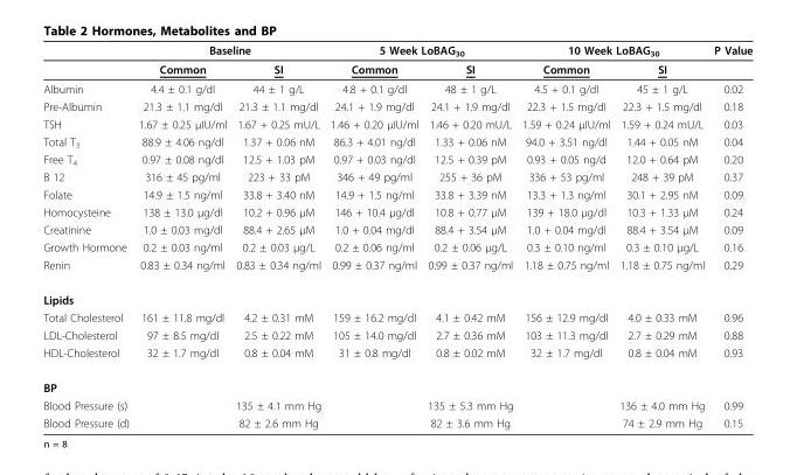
<table><thead><tr><td rowspan="2"></td><td colspan="2">Baseline</td><td colspan="2">5 Week LoBAG<sub>30</sub></td><td colspan="2">10 Week LoBAG<sub>30</sub></td><td rowspan="2">P Value</td></tr><tr><td>Common</td><td>SI</td><td>Common</td><td>SI</td><td>Common</td><td>SI</td></tr></thead><tbody><tr><td>Albumin</td><td>4.4 ± 0.1 g/dl</td><td>44 ± 1 g/L</td><td>4.8 + 0.1 g/dl</td><td>48 ± 1 g/L</td><td>4.5 + 0.1 g/dl</td><td>45 ± 1 g/L</td><td>0.02</td></tr><tr><td>Pre-Albumin</td><td>21.3 ± 1.1 mg/dl</td><td>21.3 ± 1.1 mg/dl</td><td>24.1 + 1.9 mg/dl</td><td>24.1 + 1.9 mg/dl</td><td>22.3 + 1.5 mg/dl</td><td>22.3 + 1.5 mg/dl</td><td>0.18</td></tr><tr><td>TSH</td><td>1.67 ± 0.25 μIU/ml</td><td>1.67 + 0.25 mU/L</td><td>1.46 + 0.20 μIU/ml</td><td>1.46 + 0.20 mU/L</td><td>1.59 + 0.24 μIU/ml</td><td>1.59 + 0.24 mU/L</td><td>0.03</td></tr><tr><td>Total T<sub>3</sub></td><td>88.9 ± 4.06 ng/dl</td><td>1.37 + 0.06 nM</td><td>86.3 + 4.01 ng/dl</td><td>1.33 + 0.06 nM</td><td>94.0 + 3.51 ng/dl</td><td>1.44 + 0.05 nM</td><td>0.04</td></tr><tr><td>Free T<sub>4</sub></td><td>0.97 ± 0.08 ng/dl</td><td>12.5 + 1.03 pM</td><td>0.97 + 0.03 ng/dl</td><td>12.5 + 0.39 pM</td><td>0.93 + 0.05 ng/d</td><td>12.0 + 0.64 pM</td><td>0.20</td></tr><tr><td>B 12</td><td>316 ± 45 pg/ml</td><td>223 + 33 pM</td><td>346 + 49 pg/ml</td><td>255 + 36 pM</td><td>336 + 53 pg/ml</td><td>248 + 39 pM</td><td>0.37</td></tr><tr><td>Folate</td><td>14.9 ± 1.5 ng/ml</td><td>33.8 + 3.40 nM</td><td>14.9 + 1.5 ng/ml</td><td>33.8 + 3.39 nM</td><td>13.3 + 1.3 ng/ml</td><td>30.1 + 2.95 nM</td><td>0.09</td></tr><tr><td>Homocysteine</td><td>138 ± 13.0 μg/dl</td><td>10.2 + 0.96 μM</td><td>146 + 10.4 μg/dl</td><td>10.8 + 0.77 μM</td><td>139 + 18.0 μg/dl</td><td>10.3 + 1.33 μM</td><td>0.24</td></tr><tr><td>Creatinine</td><td>1.0 ± 0.03 mg/dl</td><td>88.4 + 2.65 μM</td><td>1.0 + 0.04 mg/dl</td><td>88.4 + 3.54 μM</td><td>1.0 + 0.04 mg/dl</td><td>88.4 + 3.54 μM</td><td>0.09</td></tr><tr><td>Growth Hormone</td><td>0.2 ± 0.03 ng/ml</td><td>0.2 ± 0.03 μg/L</td><td>0.2 ± 0.06 ng/ml</td><td>0.2 ± 0.06 μg/L</td><td>0.3 ± 0.10 ng/ml</td><td>0.3 ± 0.10 μg/L</td><td>0.16</td></tr><tr><td>Renin</td><td>0.83 ± 0.34 ng/ml</td><td>0.83 ± 0.34 ng/ml</td><td>0.99 ± 0.37 ng/ml</td><td>0.99 ± 0.37 ng/ml</td><td>1.18 ± 0.75 ng/ml</td><td>1.18 ± 0.75 ng/ml</td><td>0.29</td></tr><tr><td colspan="8">Lipids</td></tr><tr><td>Total Cholesterol</td><td>161 ± 11.8 mg/dl</td><td>4.2 ± 0.31 mM</td><td>159 ± 16.2 mg/dl</td><td>4.1 ± 0.42 mM</td><td>156 ± 12.9 mg/dl</td><td>4.0 ± 0.33 mM</td><td>0.96</td></tr><tr><td>LDL-Cholesterol</td><td>97 ± 8.5 mg/dl</td><td>2.5 ± 0.22 mM</td><td>105 ± 14.0 mg/dl</td><td>2.7 ± 0.36 mM</td><td>103 ± 11.3 mg/dl</td><td>2.7 ± 0.29 mM</td><td>0.88</td></tr><tr><td>HDL-Cholesterol</td><td>32 ± 1.7 mg/dl</td><td>0.8 ± 0.04 mM</td><td>31 ± 0.8 mg/dl</td><td>0.8 ± 0.02 mM</td><td>32 ± 1.7 mg/dl</td><td>0.8 ± 0.04 mM</td><td>0.93</td></tr><tr><td colspan="8">BP</td></tr><tr><td>Blood Pressure (s)</td><td></td><td>135 ± 4.1 mm Hg</td><td></td><td>135 ± 5.3 mm Hg</td><td></td><td>136 ± 4.0 mm Hg</td><td>0.99</td></tr><tr><td>Blood Pressure (d)</td><td></td><td>82 ± 2.6 mm Hg</td><td></td><td>82 ± 3.6 mm Hg</td><td></td><td>74 ± 2.9 mm Hg</td><td>0.15</td></tr></tbody></table>